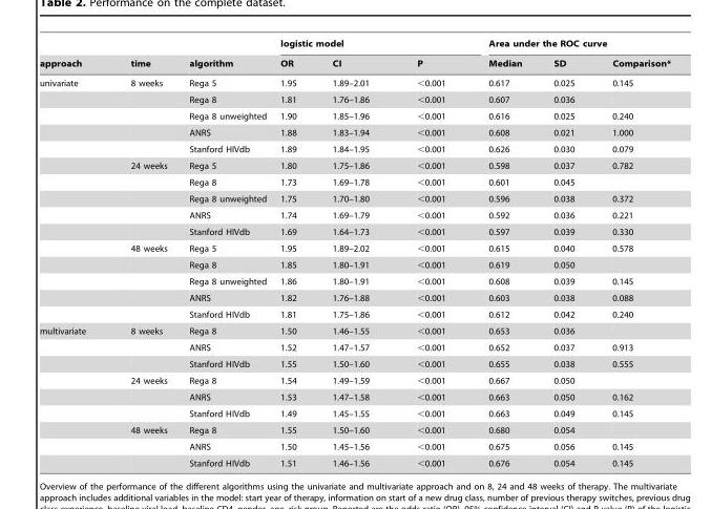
<table><thead><tr><td rowspan="2">approach</td><td rowspan="2">time</td><td rowspan="2">algorithm</td><td colspan="3">logistic model</td><td colspan="3">Area under the ROC curve</td></tr><tr><td>OR</td><td>CI</td><td>P</td><td>Median</td><td>SD</td><td>Comparison*</td></tr></thead><tbody><tr><td rowspan="15">univariate</td><td>8 weeks</td><td>Rega 5</td><td>1.95</td><td>1.89–2.01</td><td>&lt;0.001</td><td>0.617</td><td>0.025</td><td>0.145</td></tr><tr><td></td><td>Rega 8</td><td>1.81</td><td>1.76–1.86</td><td>&lt;0.001</td><td>0.607</td><td>0.036</td><td></td></tr><tr><td></td><td>Rega 8 unweighted</td><td>1.90</td><td>1.85–1.96</td><td>&lt;0.001</td><td>0.616</td><td>0.025</td><td>0.240</td></tr><tr><td></td><td>ANRS</td><td>1.88</td><td>1.83–1.94</td><td>&lt;0.001</td><td>0.608</td><td>0.021</td><td>1.000</td></tr><tr><td></td><td>Stanford HIVdb</td><td>1.89</td><td>1.84–1.95</td><td>&lt;0.001</td><td>0.626</td><td>0.030</td><td>0.079</td></tr><tr><td>24 weeks</td><td>Rega 5</td><td>1.80</td><td>1.75–1.86</td><td>&lt;0.001</td><td>0.598</td><td>0.037</td><td>0.782</td></tr><tr><td></td><td>Rega 8</td><td>1.73</td><td>1.69–1.78</td><td>&lt;0.001</td><td>0.601</td><td>0.045</td><td></td></tr><tr><td></td><td>Rega 8 unweighted</td><td>1.75</td><td>1.70–1.80</td><td>&lt;0.001</td><td>0.596</td><td>0.038</td><td>0.372</td></tr><tr><td></td><td>ANRS</td><td>1.74</td><td>1.69–1.79</td><td>&lt;0.001</td><td>0.592</td><td>0.036</td><td>0.221</td></tr><tr><td></td><td>Stanford HIVdb</td><td>1.69</td><td>1.64–1.73</td><td>&lt;0.001</td><td>0.597</td><td>0.039</td><td>0.330</td></tr><tr><td>48 weeks</td><td>Rega 5</td><td>1.95</td><td>1.89–2.02</td><td>&lt;0.001</td><td>0.615</td><td>0.040</td><td>0.578</td></tr><tr><td></td><td>Rega 8</td><td>1.85</td><td>1.80–1.91</td><td>&lt;0.001</td><td>0.619</td><td>0.050</td><td></td></tr><tr><td></td><td>Rega 8 unweighted</td><td>1.86</td><td>1.80–1.91</td><td>&lt;0.001</td><td>0.608</td><td>0.039</td><td>0.145</td></tr><tr><td></td><td>ANRS</td><td>1.82</td><td>1.76–1.88</td><td>&lt;0.001</td><td>0.603</td><td>0.038</td><td>0.088</td></tr><tr><td></td><td>Stanford HIVdb</td><td>1.81</td><td>1.75–1.86</td><td>&lt;0.001</td><td>0.612</td><td>0.042</td><td>0.240</td></tr><tr><td rowspan="9">multivariate</td><td>8 weeks</td><td>Rega 8</td><td>1.50</td><td>1.46–1.55</td><td>&lt;0.001</td><td>0.653</td><td>0.036</td><td></td></tr><tr><td></td><td>ANRS</td><td>1.52</td><td>1.47–1.57</td><td>&lt;0.001</td><td>0.652</td><td>0.037</td><td>0.913</td></tr><tr><td></td><td>Stanford HIVdb</td><td>1.55</td><td>1.50–1.60</td><td>&lt;0.001</td><td>0.655</td><td>0.038</td><td>0.555</td></tr><tr><td>24 weeks</td><td>Rega 8</td><td>1.54</td><td>1.49–1.59</td><td>&lt;0.001</td><td>0.667</td><td>0.050</td><td></td></tr><tr><td></td><td>ANRS</td><td>1.53</td><td>1.47–1.58</td><td>&lt;0.001</td><td>0.663</td><td>0.050</td><td>0.162</td></tr><tr><td></td><td>Stanford HIVdb</td><td>1.49</td><td>1.45–1.55</td><td>&lt;0.001</td><td>0.663</td><td>0.049</td><td>0.145</td></tr><tr><td>48 weeks</td><td>Rega 8</td><td>1.55</td><td>1.50–1.60</td><td>&lt;0.001</td><td>0.680</td><td>0.054</td><td></td></tr><tr><td></td><td>ANRS</td><td>1.50</td><td>1.45–1.56</td><td>&lt;0.001</td><td>0.675</td><td>0.056</td><td>0.145</td></tr><tr><td></td><td>Stanford HIVdb</td><td>1.51</td><td>1.46–1.56</td><td>&lt;0.001</td><td>0.676</td><td>0.054</td><td>0.145</td></tr></tbody></table>